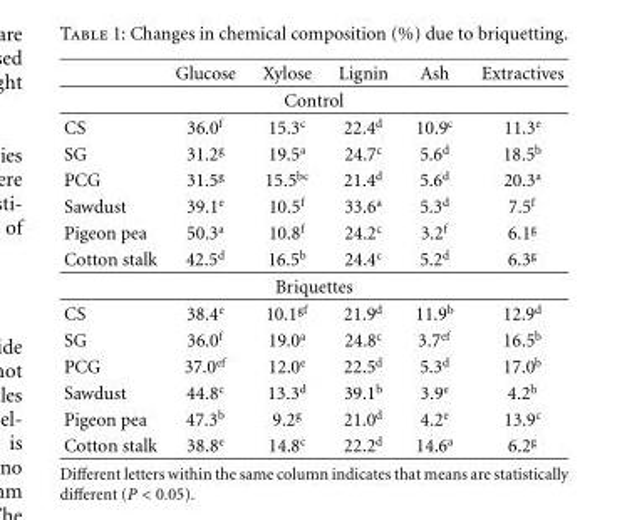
<table><thead><tr><td></td><td>Glucose</td><td>Xylose</td><td>Lignin</td><td>Ash</td><td>Extractives</td></tr></thead><tbody><tr><td colspan="6">Control</td></tr><tr><td>CS</td><td>36.0<sup>f</sup></td><td>15.3<sup>c</sup></td><td>22.4<sup>d</sup></td><td>10.9<sup>c</sup></td><td>11.3<sup>e</sup></td></tr><tr><td>SG</td><td>31.2<sup>g</sup></td><td>19.5<sup>a</sup></td><td>24.7<sup>c</sup></td><td>5.6<sup>d</sup></td><td>18.5<sup>b</sup></td></tr><tr><td>PCG</td><td>31.5<sup>g</sup></td><td>15.5<sup>bc</sup></td><td>21.4<sup>d</sup></td><td>5.6<sup>d</sup></td><td>20.3<sup>a</sup></td></tr><tr><td>Sawdust</td><td>39.1<sup>e</sup></td><td>10.5<sup>f</sup></td><td>33.6<sup>a</sup></td><td>5.3<sup>d</sup></td><td>7.5<sup>f</sup></td></tr><tr><td>Pigeon pea</td><td>50.3<sup>a</sup></td><td>10.8<sup>f</sup></td><td>24.2<sup>c</sup></td><td>3.2<sup>f</sup></td><td>6.1<sup>g</sup></td></tr><tr><td>Cotton stalk</td><td>42.5<sup>d</sup></td><td>16.5<sup>b</sup></td><td>24.4<sup>c</sup></td><td>5.2<sup>d</sup></td><td>6.3<sup>g</sup></td></tr><tr><td colspan="6">Briquettes</td></tr><tr><td>CS</td><td>38.4<sup>e</sup></td><td>10.1<sup>gf</sup></td><td>21.9<sup>d</sup></td><td>11.9<sup>b</sup></td><td>12.9<sup>d</sup></td></tr><tr><td>SG</td><td>36.0<sup>f</sup></td><td>19.0<sup>a</sup></td><td>24.8<sup>c</sup></td><td>3.7<sup>ef</sup></td><td>16.5<sup>b</sup></td></tr><tr><td>PCG</td><td>37.0<sup>ef</sup></td><td>12.0<sup>e</sup></td><td>22.5<sup>d</sup></td><td>5.3<sup>d</sup></td><td>17.0<sup>b</sup></td></tr><tr><td>Sawdust</td><td>44.8<sup>c</sup></td><td>13.3<sup>d</sup></td><td>39.1<sup>b</sup></td><td>3.9<sup>e</sup></td><td>4.2<sup>h</sup></td></tr><tr><td>Pigeon pea</td><td>47.3<sup>b</sup></td><td>9.2<sup>g</sup></td><td>21.0<sup>d</sup></td><td>4.2<sup>e</sup></td><td>13.9<sup>c</sup></td></tr><tr><td>Cotton stalk</td><td>38.8<sup>e</sup></td><td>14.8<sup>c</sup></td><td>22.2<sup>d</sup></td><td>14.6<sup>a</sup></td><td>6.2<sup>g</sup></td></tr></tbody></table>